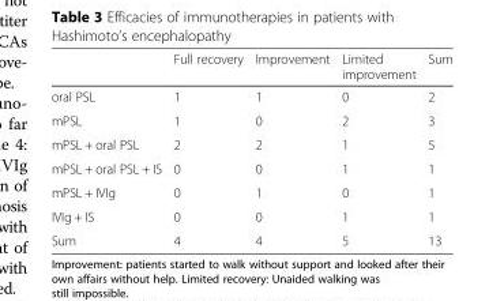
<table><thead><tr><td></td><td>Full recovery</td><td>Improvement</td><td>Limited improvement</td><td>Sum</td></tr></thead><tbody><tr><td>oral PSL</td><td>1</td><td>1</td><td>0</td><td>2</td></tr><tr><td>mPSL</td><td>1</td><td>0</td><td>2</td><td>3</td></tr><tr><td>mPSL + oral PSL</td><td>2</td><td>2</td><td>1</td><td>5</td></tr><tr><td>mPSL + oral PSL + IS</td><td>0</td><td>0</td><td>1</td><td>1</td></tr><tr><td>mPSL + IVIg</td><td>0</td><td>1</td><td>0</td><td>1</td></tr><tr><td>IVIg + IS</td><td>0</td><td>0</td><td>1</td><td>1</td></tr><tr><td>Sum</td><td>4</td><td>4</td><td>5</td><td>13</td></tr></tbody></table>